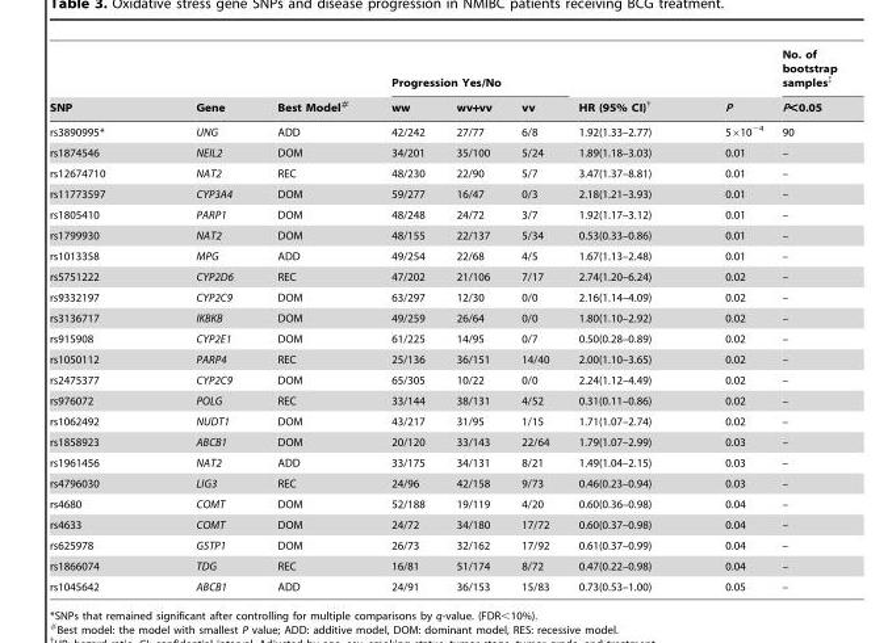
<table><thead><tr><td rowspan="2">SNP</td><td rowspan="2">Gene</td><td rowspan="2">Best Model#</td><td colspan="3">Progression Yes/No</td><td rowspan="2">HR (95% CI)†</td><td rowspan="2">P</td><td rowspan="2">No. of bootstrap samples‡ P&lt;0.05</td></tr><tr><td>ww</td><td>wv+vv</td><td>vv</td></tr></thead><tbody><tr><td>rs3890995*</td><td>UNG</td><td>ADD</td><td>42/242</td><td>27/77</td><td>6/8</td><td>1.92(1.33–2.77)</td><td>5×10<sup>−4</sup></td><td>90</td></tr><tr><td>rs1874546</td><td>NEIL2</td><td>DOM</td><td>34/201</td><td>35/100</td><td>5/24</td><td>1.89(1.18–3.03)</td><td>0.01</td><td>–</td></tr><tr><td>rs12674710</td><td>NAT2</td><td>REC</td><td>48/230</td><td>22/90</td><td>5/7</td><td>3.47(1.37–8.81)</td><td>0.01</td><td>–</td></tr><tr><td>rs11773597</td><td>CYP3A4</td><td>DOM</td><td>59/277</td><td>16/47</td><td>0/3</td><td>2.18(1.21–3.93)</td><td>0.01</td><td>–</td></tr><tr><td>rs1805410</td><td>PARP1</td><td>DOM</td><td>48/248</td><td>24/72</td><td>3/7</td><td>1.92(1.17–3.12)</td><td>0.01</td><td>–</td></tr><tr><td>rs1799930</td><td>NAT2</td><td>DOM</td><td>48/155</td><td>22/137</td><td>5/34</td><td>0.53(0.33–0.86)</td><td>0.01</td><td>–</td></tr><tr><td>rs1013358</td><td>MPG</td><td>ADD</td><td>49/254</td><td>22/68</td><td>4/5</td><td>1.67(1.13–2.48)</td><td>0.01</td><td>–</td></tr><tr><td>rs5751222</td><td>CYP2D6</td><td>REC</td><td>47/202</td><td>21/106</td><td>7/17</td><td>2.74(1.20–6.24)</td><td>0.02</td><td>–</td></tr><tr><td>rs9332197</td><td>CYP2C9</td><td>DOM</td><td>63/297</td><td>12/30</td><td>0/0</td><td>2.16(1.14–4.09)</td><td>0.02</td><td>–</td></tr><tr><td>rs3136717</td><td>IKBKB</td><td>DOM</td><td>49/259</td><td>26/64</td><td>0/0</td><td>1.80(1.10–2.92)</td><td>0.02</td><td>–</td></tr><tr><td>rs915908</td><td>CYP2E1</td><td>DOM</td><td>61/225</td><td>14/95</td><td>0/7</td><td>0.50(0.28–0.89)</td><td>0.02</td><td>–</td></tr><tr><td>rs1050112</td><td>PARP4</td><td>REC</td><td>25/136</td><td>36/151</td><td>14/40</td><td>2.00(1.10–3.65)</td><td>0.02</td><td>–</td></tr><tr><td>rs2475377</td><td>CYP2C9</td><td>DOM</td><td>65/305</td><td>10/22</td><td>0/0</td><td>2.24(1.12–4.49)</td><td>0.02</td><td>–</td></tr><tr><td>rs976072</td><td>POLG</td><td>REC</td><td>33/144</td><td>38/131</td><td>4/52</td><td>0.31(0.11–0.86)</td><td>0.02</td><td>–</td></tr><tr><td>rs1062492</td><td>NUDT1</td><td>DOM</td><td>43/217</td><td>31/95</td><td>1/15</td><td>1.71(1.07–2.74)</td><td>0.02</td><td>–</td></tr><tr><td>rs1858923</td><td>ABCB1</td><td>DOM</td><td>20/120</td><td>33/143</td><td>22/64</td><td>1.79(1.07–2.99)</td><td>0.03</td><td>–</td></tr><tr><td>rs1961456</td><td>NAT2</td><td>ADD</td><td>33/175</td><td>34/131</td><td>8/21</td><td>1.49(1.04–2.15)</td><td>0.03</td><td>–</td></tr><tr><td>rs4796030</td><td>LIG3</td><td>REC</td><td>24/96</td><td>42/158</td><td>9/73</td><td>0.46(0.23–0.94)</td><td>0.03</td><td>–</td></tr><tr><td>rs4680</td><td>COMT</td><td>DOM</td><td>52/188</td><td>19/119</td><td>4/20</td><td>0.60(0.36–0.98)</td><td>0.04</td><td>–</td></tr><tr><td>rs4633</td><td>COMT</td><td>DOM</td><td>24/72</td><td>34/180</td><td>17/72</td><td>0.60(0.37–0.98)</td><td>0.04</td><td>–</td></tr><tr><td>rs625978</td><td>GSTP1</td><td>DOM</td><td>26/73</td><td>32/162</td><td>17/92</td><td>0.61(0.37–0.99)</td><td>0.04</td><td>–</td></tr><tr><td>rs1866074</td><td>TDG</td><td>REC</td><td>16/81</td><td>51/174</td><td>8/72</td><td>0.47(0.22–0.98)</td><td>0.04</td><td>–</td></tr><tr><td>rs1045642</td><td>ABCB1</td><td>ADD</td><td>24/91</td><td>36/153</td><td>15/83</td><td>0.73(0.53–1.00)</td><td>0.05</td><td>–</td></tr></tbody></table>